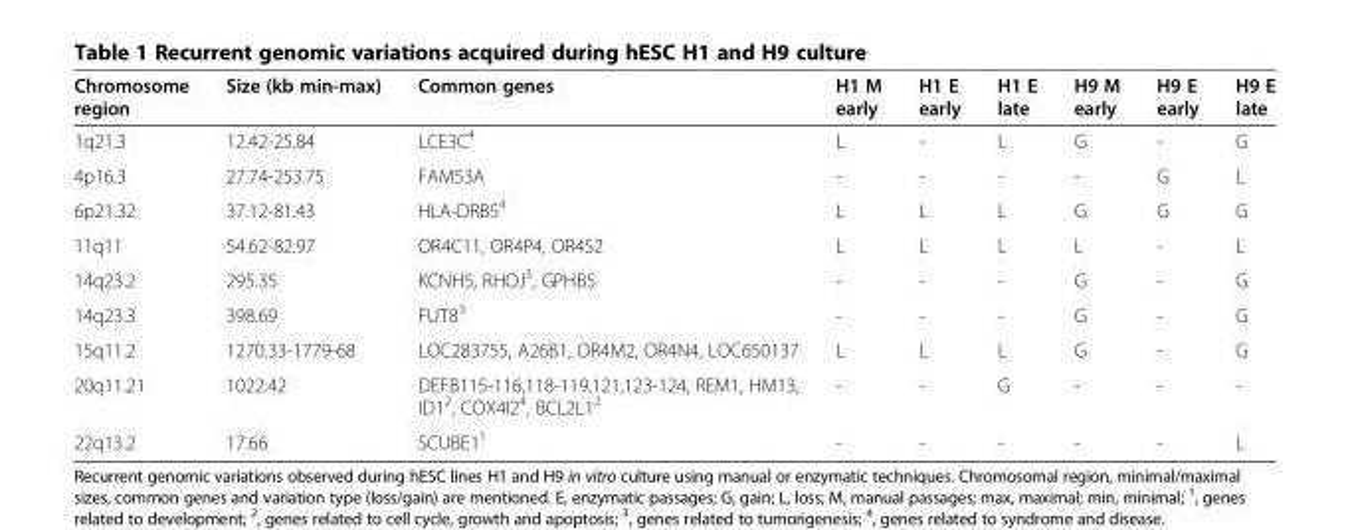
<table><thead><tr><td>Chromosome region</td><td>Size (kb min-max)</td><td>Common genes</td><td>H1 M early</td><td>H1 E early</td><td>H1 E late</td><td>H9 M early</td><td>H9 E early</td><td>H9 E late</td></tr></thead><tbody><tr><td>1q21.3</td><td>12.42-25.84</td><td>LCE3C<sup>4</sup></td><td>L</td><td>-</td><td>L</td><td>G</td><td>-</td><td>G</td></tr><tr><td>4p16.3</td><td>27.74-253.75</td><td>FAM53A</td><td>-</td><td>-</td><td>-</td><td>-</td><td>G</td><td>L</td></tr><tr><td>6p21.32</td><td>37.12-81.43</td><td>HLA-DRB5<sup>4</sup></td><td>L</td><td>L</td><td>L</td><td>G</td><td>G</td><td>G</td></tr><tr><td>11q11</td><td>54.62-82.97</td><td>OR4C11, OR4P4, OR4S2</td><td>L</td><td>L</td><td>L</td><td>L</td><td>-</td><td>L</td></tr><tr><td>14q23.2</td><td>295.35</td><td>KCNH5, RHOJ<sup>3</sup>, GPHB5</td><td>-</td><td>-</td><td>-</td><td>G</td><td>-</td><td>G</td></tr><tr><td>14q23.3</td><td>398.69</td><td>FUT8<sup>3</sup></td><td>-</td><td>-</td><td>-</td><td>G</td><td>-</td><td>G</td></tr><tr><td>15q11.2</td><td>1270.33-1779-68</td><td>LOC283755, A26B1, OR4M2, OR4N4, LOC650137</td><td>L</td><td>L</td><td>L</td><td>G</td><td>-</td><td>G</td></tr><tr><td>20q11.21</td><td>1022.42</td><td>DEFB115-116,118-119,121,123-124, REM1, HM13, ID1<sup>2</sup>, COX4I2<sup>4</sup>, BCL2L1<sup>2</sup></td><td>-</td><td>-</td><td>G</td><td>-</td><td>-</td><td>-</td></tr><tr><td>22q13.2</td><td>17.66</td><td>SCUBE1<sup>1</sup></td><td>-</td><td>-</td><td>-</td><td>-</td><td>-</td><td>L</td></tr></tbody></table>